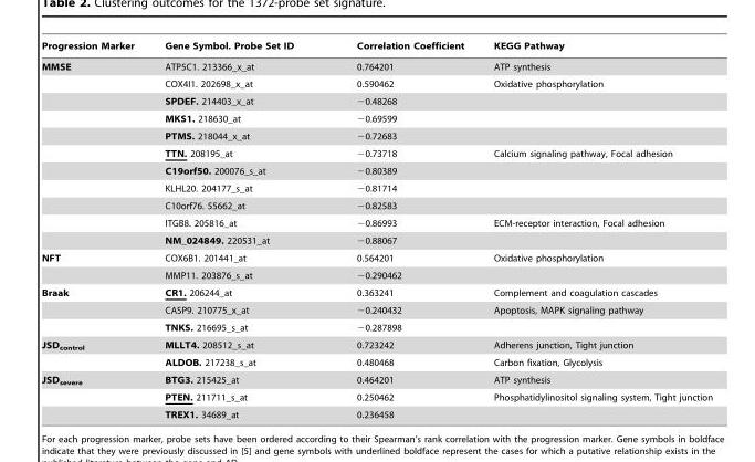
<table><thead><tr><td>Progression Marker</td><td>Gene Symbol. Probe Set ID</td><td>Correlation Coefficient</td><td>KEGG Pathway</td></tr></thead><tbody><tr><td rowspan="11">MMSE</td><td>ATP5C1. 213366_x_at</td><td>0.764201</td><td>ATP synthesis</td></tr><tr><td>COX4I1. 202698_x_at</td><td>0.590462</td><td>Oxidative phosphorylation</td></tr><tr><td>SPDEF. 214403_x_at</td><td>−0.48268</td><td></td></tr><tr><td>MKS1. 218630_at</td><td>−0.69599</td><td></td></tr><tr><td>PTMS. 218044_x_at</td><td>−0.72683</td><td></td></tr><tr><td>TTN. 208195_at</td><td>−0.73718</td><td>Calcium signaling pathway, Focal adhesion</td></tr><tr><td>C19orf50. 200076_s_at</td><td>−0.80389</td><td></td></tr><tr><td>KLHL20. 204177_s_at</td><td>−0.81714</td><td></td></tr><tr><td>C10orf76. 55662_at</td><td>−0.82583</td><td></td></tr><tr><td>ITGB8. 205816_at</td><td>−0.86993</td><td>ECM-receptor interaction, Focal adhesion</td></tr><tr><td>NM_024849. 220531_at</td><td>−0.88067</td><td></td></tr><tr><td rowspan="2">NFT</td><td>COX6B1. 201441_at</td><td>0.564201</td><td>Oxidative phosphorylation</td></tr><tr><td>MMP11. 203876_s_at</td><td>−0.290462</td><td></td></tr><tr><td rowspan="3">Braak</td><td>CR1. 206244_at</td><td>0.363241</td><td>Complement and coagulation cascades</td></tr><tr><td>CASP9. 210775_x_at</td><td>−0.240432</td><td>Apoptosis, MAPK signaling pathway</td></tr><tr><td>TNKS. 216695_s_at</td><td>−0.287898</td><td></td></tr><tr><td rowspan="2">JSD<sub>control</sub></td><td>MLLT4. 208512_s_at</td><td>0.723242</td><td>Adherens junction, Tight junction</td></tr><tr><td>ALDOB. 217238_s_at</td><td>0.480468</td><td>Carbon fixation, Glycolysis</td></tr><tr><td rowspan="3">JSD<sub>severe</sub></td><td>BTG3. 215425_at</td><td>0.464201</td><td>ATP synthesis</td></tr><tr><td>PTEN. 211711_s_at</td><td>0.250462</td><td>Phosphatidylinositol signaling system, Tight junction</td></tr><tr><td>TREX1. 34689_at</td><td>0.236458</td><td></td></tr></tbody></table>